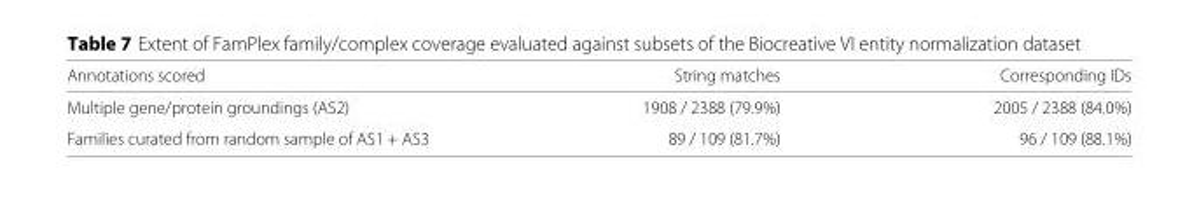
<table><thead><tr><td>Annotations scored</td><td>String matches</td><td>Corresponding IDs</td></tr></thead><tbody><tr><td>Multiple gene/protein groundings (AS2)</td><td>1908 / 2388 (79.9%)</td><td>2005 / 2388 (84.0%)</td></tr><tr><td>Families curated from random sample of AS1 + AS3</td><td>89 / 109 (81.7%)</td><td>96 / 109 (88.1%)</td></tr></tbody></table>